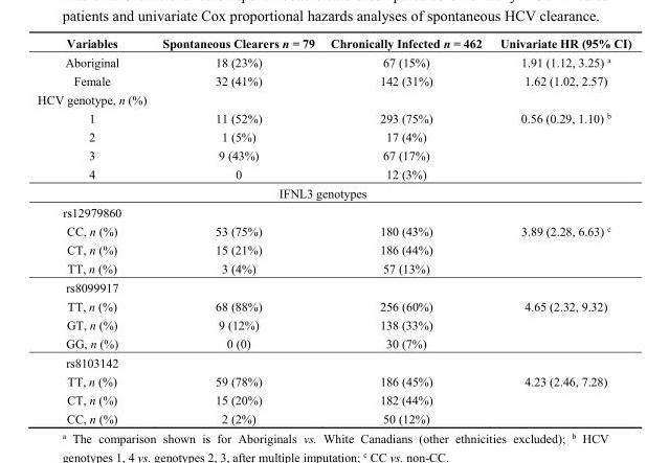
<table><thead><tr><td>Variables</td><td>Spontaneous Clearers n = 79</td><td>Chronically Infected n = 462</td><td>Univariate HR (95% CI)</td></tr></thead><tbody><tr><td>Aboriginal</td><td>18 (23%)</td><td>67 (15%)</td><td>1.91 (1.12, 3.25) <sup>a</sup></td></tr><tr><td>Female</td><td>32 (41%)</td><td>142 (31%)</td><td>1.62 (1.02, 2.57)</td></tr><tr><td colspan="4">HCV genotype, n (%)</td></tr><tr><td>1</td><td>11 (52%)</td><td>293 (75%)</td><td>0.56 (0.29, 1.10) <sup>b</sup></td></tr><tr><td>2</td><td>1 (5%)</td><td>17 (4%)</td><td></td></tr><tr><td>3</td><td>9 (43%)</td><td>67 (17%)</td><td rowspan="2"></td></tr><tr><td rowspan="2">4</td><td>0</td><td>12 (3%)</td></tr><tr><td colspan="2">IFNL3 genotypes</td><td></td></tr><tr><td colspan="4">rs12979860</td></tr><tr><td>CC, n (%)</td><td>53 (75%)</td><td>180 (43%)</td><td>3.89 (2.28, 6.63) <sup>c</sup></td></tr><tr><td>CT, n (%)</td><td>15 (21%)</td><td>186 (44%)</td><td></td></tr><tr><td>TT, n (%)</td><td>3 (4%)</td><td>57 (13%)</td><td></td></tr><tr><td colspan="4">rs8099917</td></tr><tr><td>TT, n (%)</td><td>68 (88%)</td><td>256 (60%)</td><td>4.65 (2.32, 9.32)</td></tr><tr><td>GT, n (%)</td><td>9 (12%)</td><td>138 (33%)</td><td></td></tr><tr><td>GG, n (%)</td><td>0 (0)</td><td>30 (7%)</td><td></td></tr><tr><td colspan="4">rs8103142</td></tr><tr><td>TT, n (%)</td><td>59 (78%)</td><td>186 (45%)</td><td>4.23 (2.46, 7.28)</td></tr><tr><td>CT, n (%)</td><td>15 (20%)</td><td>182 (44%)</td><td></td></tr><tr><td>CC, n (%)</td><td>2 (2%)</td><td>50 (12%)</td><td></td></tr></tbody></table>